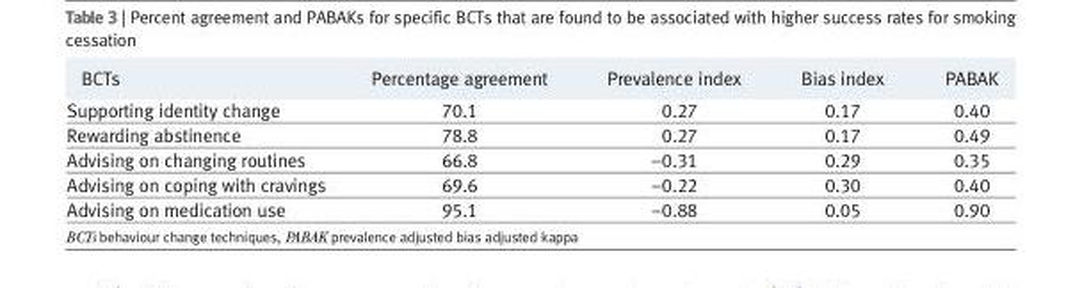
<table><thead><tr><td>BCTs</td><td>Percentage agreement</td><td>Prevalence index</td><td>Bias index</td><td>PABAK</td></tr></thead><tbody><tr><td>Supporting identity change</td><td>70.1</td><td>0.27</td><td>0.17</td><td>0.40</td></tr><tr><td>Rewarding abstinence</td><td>78.8</td><td>0.27</td><td>0.17</td><td>0.49</td></tr><tr><td>Advising on changing routines</td><td>66.8</td><td>−0.31</td><td>0.29</td><td>0.35</td></tr><tr><td>Advising on coping with cravings</td><td>69.6</td><td>−0.22</td><td>0.30</td><td>0.40</td></tr><tr><td>Advising on medication use</td><td>95.1</td><td>−0.88</td><td>0.05</td><td>0.90</td></tr></tbody></table>